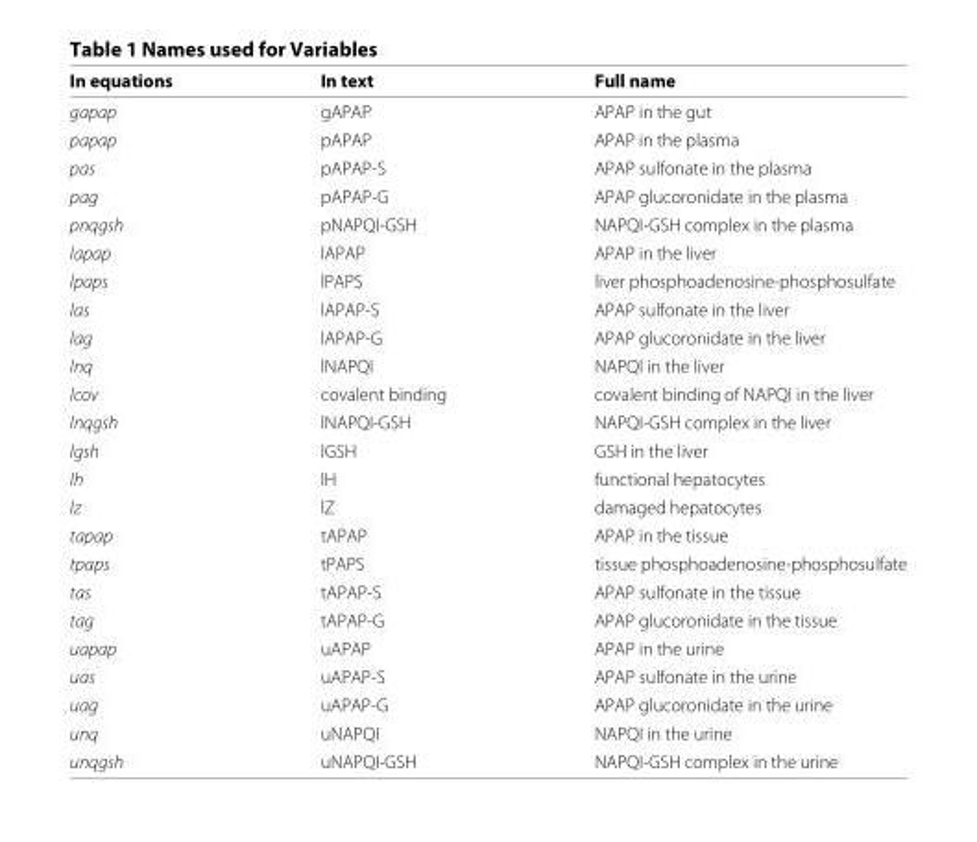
<table><thead><tr><td>In equations</td><td>In text</td><td>Full name</td></tr></thead><tbody><tr><td>gapap</td><td>gAPAP</td><td>APAP in the gut</td></tr><tr><td>papap</td><td>pAPAP</td><td>APAP in the plasma</td></tr><tr><td>pas</td><td>pAPAP-S</td><td>APAP sulfonate in the plasma</td></tr><tr><td>pag</td><td>pAPAP-G</td><td>APAP glucoronidate in the plasma</td></tr><tr><td>pnqgsh</td><td>pNAPQI-GSH</td><td>NAPQI-GSH complex in the plasma</td></tr><tr><td>lapap</td><td>lAPAP</td><td>APAP in the liver</td></tr><tr><td>lpaps</td><td>lPAPS</td><td>liver phosphoadenosine-phosphosulfate</td></tr><tr><td>las</td><td>lAPAP-S</td><td>APAP sulfonate in the liver</td></tr><tr><td>lag</td><td>lAPAP-G</td><td>APAP glucoronidate in the liver</td></tr><tr><td>lnq</td><td>lNAPQI</td><td>NAPQI in the liver</td></tr><tr><td>lcov</td><td>covalent binding</td><td>covalent binding of NAPQI in the liver</td></tr><tr><td>lnqgsh</td><td>lNAPQI-GSH</td><td>NAPQI-GSH complex in the liver</td></tr><tr><td>lgsh</td><td>lGSH</td><td>GSH in the liver</td></tr><tr><td>lh</td><td>lH</td><td>functional hepatocytes</td></tr><tr><td>lz</td><td>lZ</td><td>damaged hepatocytes</td></tr><tr><td>tapap</td><td>tAPAP</td><td>APAP in the tissue</td></tr><tr><td>tpaps</td><td>tPAPS</td><td>tissue phosphoadenosine-phosphosulfate</td></tr><tr><td>tas</td><td>tAPAP-S</td><td>APAP sulfonate in the tissue</td></tr><tr><td>tag</td><td>tAPAP-G</td><td>APAP glucoronidate in the tissue</td></tr><tr><td>uapap</td><td>uAPAP</td><td>APAP in the urine</td></tr><tr><td>uas</td><td>uAPAP-S</td><td>APAP sulfonate in the urine</td></tr><tr><td>uag</td><td>uAPAP-G</td><td>APAP glucoronidate in the urine</td></tr><tr><td>unq</td><td>uNAPQI</td><td>NAPQI in the urine</td></tr><tr><td>unqgsh</td><td>uNAPQI-GSH</td><td>NAPQI-GSH complex in the urine</td></tr></tbody></table>